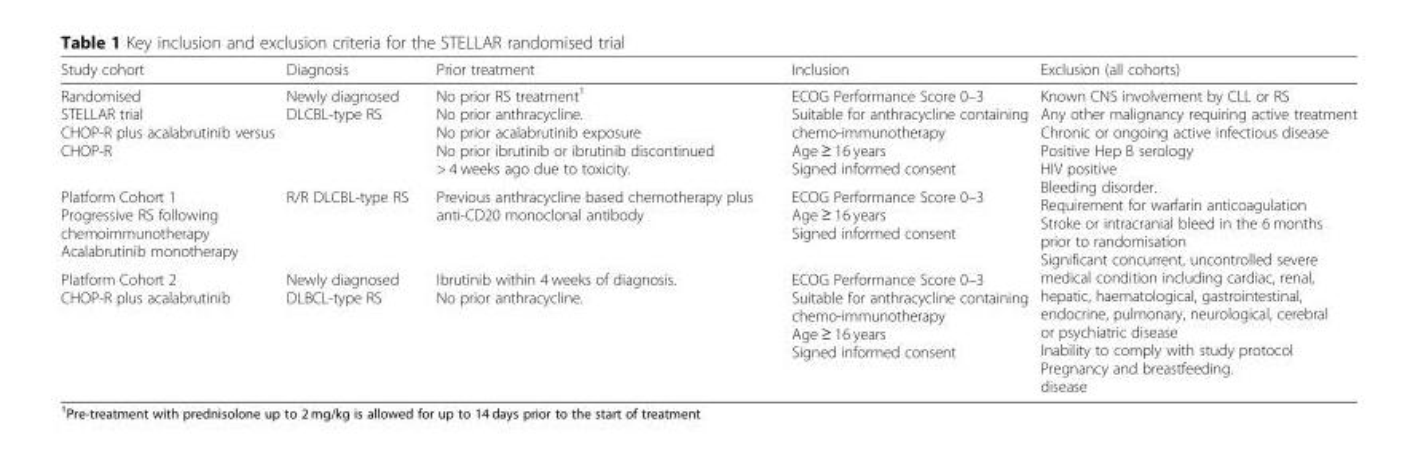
<table><thead><tr><td>Study cohort</td><td>Diagnosis</td><td>Prior treatment</td><td>Inclusion</td><td>Exclusion (all cohorts)</td></tr></thead><tbody><tr><td>Randomised STELLAR trial CHOP-R plus acalabrutinib versus CHOP-R</td><td>Newly diagnosed DLCBL-type RS</td><td>No prior RS treatment<sup>1</sup> No prior anthracycline. No prior acalabrutinib exposure No prior ibrutinib or ibrutinib discontinued &gt; 4 weeks ago due to toxicity.</td><td>ECOG Performance Score 0–3 Suitable for anthracycline containing chemo-immunotherapy Age ≥ 16 years Signed informed consent</td><td rowspan="3">Known CNS involvement by CLL or RS Any other malignancy requiring active treatment Chronic or ongoing active infectious disease Positive Hep B serology HIV positive Bleeding disorder. Requirement for warfarin anticoagulation Stroke or intracranial bleed in the 6 months prior to randomisation Significant concurrent, uncontrolled severe medical condition including cardiac, renal, hepatic, haematological, gastrointestinal, endocrine, pulmonary, neurological, cerebral or psychiatric disease Inability to comply with study protocol Pregnancy and breastfeeding. disease</td></tr><tr><td>Platform Cohort 1 Progressive RS following chemoimmunotherapy Acalabrutinib monotherapy</td><td>R/R DLCBL-type RS</td><td>Previous anthracycline based chemotherapy plus anti-CD20 monoclonal antibody</td><td>ECOG Performance Score 0–3 Age ≥ 16 years Signed informed consent</td></tr><tr><td>Platform Cohort 2 CHOP-R plus acalabrutinib</td><td>Newly diagnosed DLBCL-type RS</td><td>Ibrutinib within 4 weeks of diagnosis. No prior anthracycline.</td><td>ECOG Performance Score 0–3 Suitable for anthracycline containing chemo-immunotherapy Age ≥ 16 years Signed informed consent</td></tr></tbody></table>